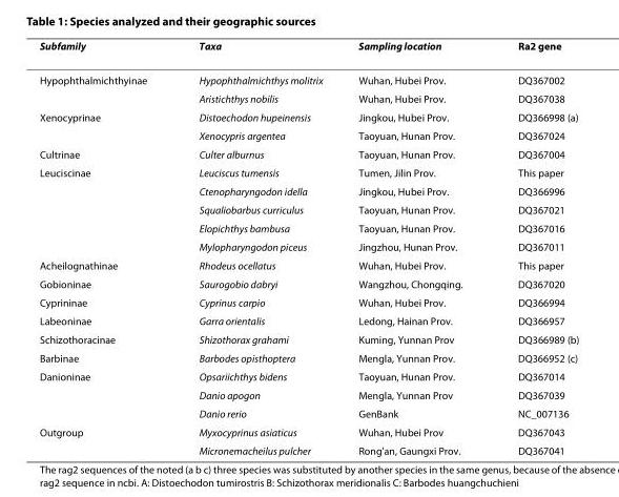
<table><thead><tr><td>Subfamily</td><td>Taxa</td><td>Sampling location</td><td>Ra2 gene</td></tr></thead><tbody><tr><td rowspan="2">Hypophthalmichthyinae</td><td>Hypophthalmichthys molitrix</td><td>Wuhan, Hubei Prov.</td><td>DQ367002</td></tr><tr><td>Aristichthys nobilis</td><td>Wuhan, Hubei Prov.</td><td>DQ367038</td></tr><tr><td rowspan="2">Xenocyprinae</td><td>Distoechodon hupeinensis</td><td>Jingkou, Hubei Prov.</td><td>DQ366998 (a)</td></tr><tr><td>Xenocypris argentea</td><td>Taoyuan, Hunan Prov.</td><td>DQ367024</td></tr><tr><td>Cultrinae</td><td>Culter alburnus</td><td>Taoyuan, Hunan Prov.</td><td>DQ367004</td></tr><tr><td rowspan="5">Leuciscinae</td><td>Leuciscus tumensis</td><td>Tumen, Jilin Prov.</td><td>This paper</td></tr><tr><td>Ctenopharyngodon idella</td><td>Jingkou, Hubei Prov.</td><td>DQ366996</td></tr><tr><td>Squaliobarbus curriculus</td><td>Taoyuan, Hunan Prov.</td><td>DQ367021</td></tr><tr><td>Elopichthys bambusa</td><td>Taoyuan, Hunan Prov.</td><td>DQ367016</td></tr><tr><td>Mylopharyngodon piceus</td><td>Jingzhou, Hunan Prov.</td><td>DQ367011</td></tr><tr><td>Acheilognathinae</td><td>Rhodeus ocellatus</td><td>Wuhan, Hubei Prov.</td><td>This paper</td></tr><tr><td>Gobioninae</td><td>Saurogobio dabryi</td><td>Wangzhou, Chongqing.</td><td>DQ367020</td></tr><tr><td>Cyprininae</td><td>Cyprinus carpio</td><td>Wuhan, Hubei Prov.</td><td>DQ366994</td></tr><tr><td>Labeoninae</td><td>Garra orientalis</td><td>Ledong, Hainan Prov.</td><td>DQ366957</td></tr><tr><td>Schizothoracinae</td><td>Shizothorax grahami</td><td>Kuming, Yunnan Prov</td><td>DQ366989 (b)</td></tr><tr><td>Barbinae</td><td>Barbodes opisthoptera</td><td>Mengla, Yunnan Prov.</td><td>DQ366952 (c)</td></tr><tr><td rowspan="3">Danioninae</td><td>Opsariichthys bidens</td><td>Taoyuan, Hunan Prov.</td><td>DQ367014</td></tr><tr><td>Danio apogon</td><td>Mengla, Yunnan Prov</td><td>DQ367039</td></tr><tr><td>Danio rerio</td><td>GenBank</td><td>NC_007136</td></tr><tr><td rowspan="2">Outgroup</td><td>Myxocyprinus asiaticus</td><td>Wuhan, Hubei Prov</td><td>DQ367043</td></tr><tr><td>Micronemacheilus pulcher</td><td>Rong&#x27;an, Gaungxi Prov.</td><td>DQ367041</td></tr></tbody></table>